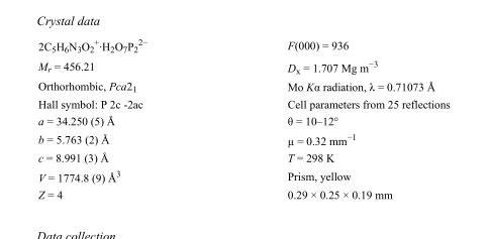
<table><tbody><tr><td>2C<sub>5</sub>H<sub>6</sub>N<sub>3</sub>O<sub>2</sub> <sup>+</sup>·H<sub>2</sub>O<sub>7</sub>P<sub>2</sub> <sup>2−</sup></td><td>F(000) = 936</td></tr><tr><td>M<sub>r</sub> = 456.21</td><td>D<sub>x</sub> = 1.707 Mg m<sup>−3</sup></td></tr><tr><td>Orthorhombic, Pca2<sub>1</sub></td><td>Mo Kα radiation, λ = 0.71073 Å</td></tr><tr><td>Hall symbol: P 2c -2ac</td><td>Cell parameters from 25 reflections</td></tr><tr><td>a = 34.250 (5) Å</td><td>θ = 10–12°</td></tr><tr><td>b = 5.763 (2) Å</td><td>µ = 0.32 mm<sup>−1</sup></td></tr><tr><td>c = 8.991 (3) Å</td><td>T = 298 K</td></tr><tr><td>V = 1774.8 (9) Å<sup>3</sup></td><td>Prism, yellow</td></tr><tr><td>Z = 4</td><td>0.29 × 0.25 × 0.19 mm</td></tr></tbody></table>